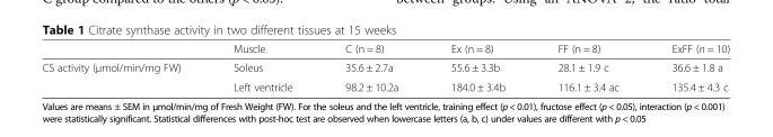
<table><thead><tr><td></td><td>Muscle</td><td>C (n = 8)</td><td>Ex (n = 8)</td><td>FF (n = 8)</td><td>ExFF (n = 10)</td></tr></thead><tbody><tr><td rowspan="2">CS activity (μmol/min/mg FW)</td><td>Soleus</td><td>35.6 ± 2.7a</td><td>55.6 ± 3.3b</td><td>28.1 ± 1.9 c</td><td>36.6 ± 1.8 a</td></tr><tr><td>Left ventricle</td><td>98.2 ± 10.2a</td><td>184.0 ± 3.4b</td><td>116.1 ± 3.4 ac</td><td>135.4 ± 4.3 c</td></tr></tbody></table>